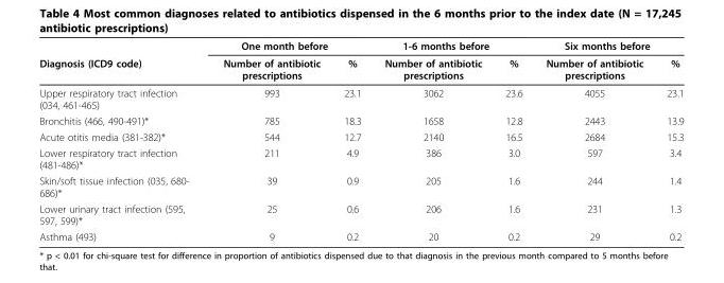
<table><thead><tr><td rowspan="2">Diagnosis (ICD9 code)</td><td colspan="2">One month before</td><td colspan="2">1-6 months before</td><td colspan="2">Six months before</td></tr><tr><td>Number of antibiotic prescriptions</td><td>%</td><td>Number of antibiotic prescriptions</td><td>%</td><td>Number of antibiotic prescriptions</td><td>%</td></tr></thead><tbody><tr><td>Upper respiratory tract infection (034, 461-465)</td><td>993</td><td>23.1</td><td>3062</td><td>23.6</td><td>4055</td><td>23.1</td></tr><tr><td>Bronchitis (466, 490-491)*</td><td>785</td><td>18.3</td><td>1658</td><td>12.8</td><td>2443</td><td>13.9</td></tr><tr><td>Acute otitis media (381-382)*</td><td>544</td><td>12.7</td><td>2140</td><td>16.5</td><td>2684</td><td>15.3</td></tr><tr><td>Lower respiratory tract infection (481-486)*</td><td>211</td><td>4.9</td><td>386</td><td>3.0</td><td>597</td><td>3.4</td></tr><tr><td>Skin/soft tissue infection (035, 680- 686)*</td><td>39</td><td>0.9</td><td>205</td><td>1.6</td><td>244</td><td>1.4</td></tr><tr><td>Lower urinary tract infection (595, 597, 599)*</td><td>25</td><td>0.6</td><td>206</td><td>1.6</td><td>231</td><td>1.3</td></tr><tr><td>Asthma (493)</td><td>9</td><td>0.2</td><td>20</td><td>0.2</td><td>29</td><td>0.2</td></tr></tbody></table>